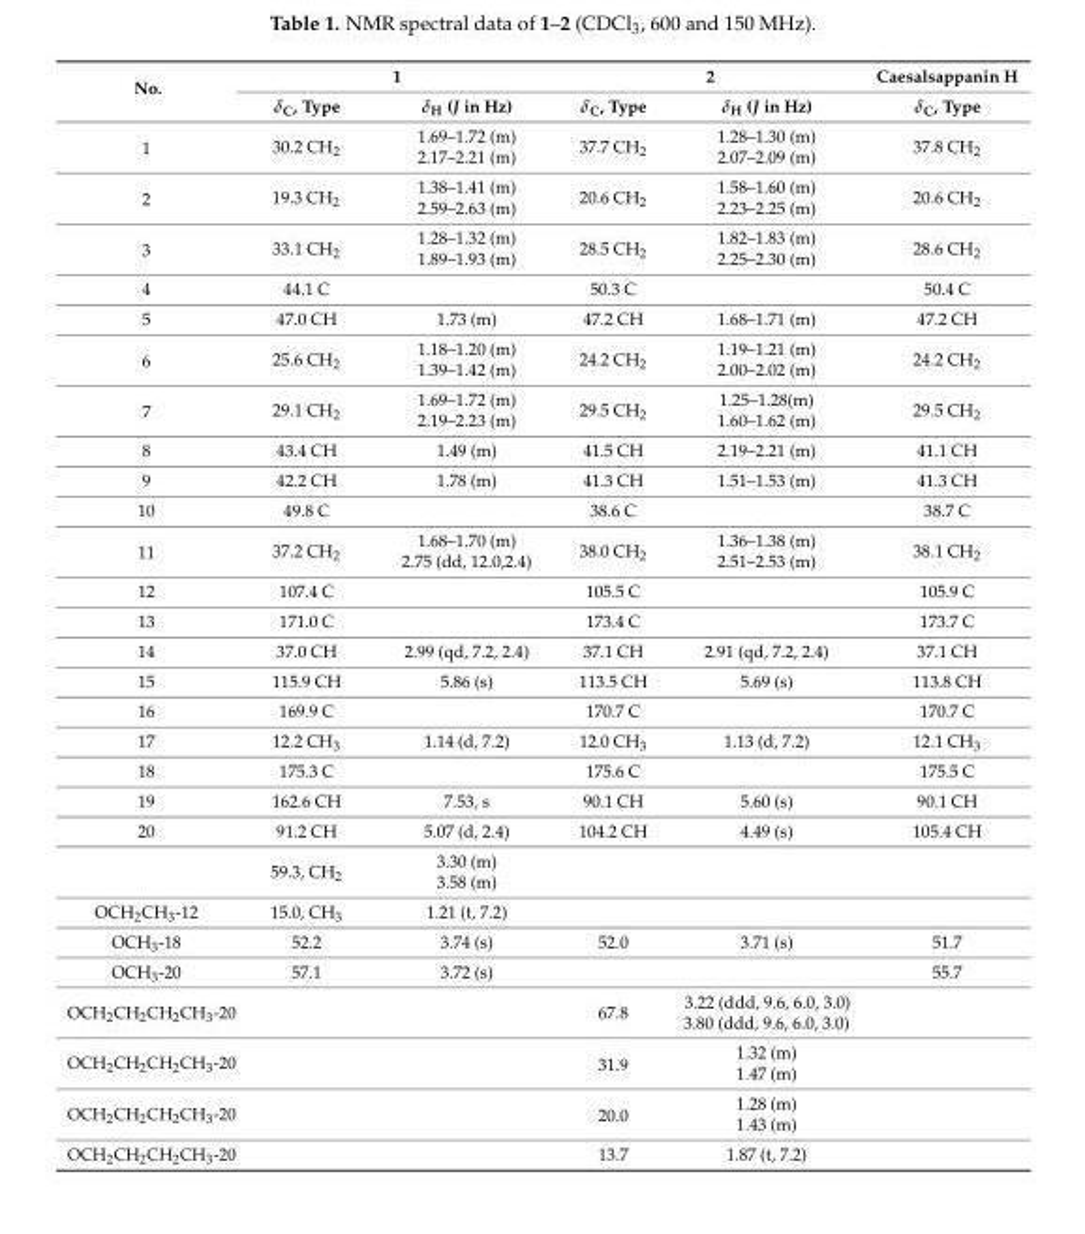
<table><thead><tr><td rowspan="2">No.</td><td colspan="2">1</td><td colspan="2">2</td><td rowspan="2">Caesalsappanin H δ<sub>C</sub>, Type</td></tr><tr><td>δ<sub>C</sub>, Type</td><td>δ<sub>H</sub> (J in Hz)</td><td>δ<sub>C</sub>, Type</td><td>δ<sub>H</sub> (J in Hz)</td></tr></thead><tbody><tr><td rowspan="2">1</td><td rowspan="2">30.2 CH<sub>2</sub></td><td>1.69–1.72 (m)</td><td rowspan="2">37.7 CH<sub>2</sub></td><td>1.28–1.30 (m)</td><td rowspan="2">37.8 CH<sub>2</sub></td></tr><tr><td>2.17–2.21 (m)</td><td>2.07–2.09 (m)</td></tr><tr><td rowspan="2">2</td><td rowspan="2">19.3 CH<sub>2</sub></td><td>1.38–1.41 (m)</td><td rowspan="2">20.6 CH<sub>2</sub></td><td>1.58–1.60 (m)</td><td rowspan="2">20.6 CH<sub>2</sub></td></tr><tr><td>2.59–2.63 (m)</td><td>2.23–2.25 (m)</td></tr><tr><td rowspan="2">3</td><td rowspan="2">33.1 CH<sub>2</sub></td><td>1.28–1.32 (m)</td><td rowspan="2">28.5 CH<sub>2</sub></td><td>1.82–1.83 (m)</td><td rowspan="2">28.6 CH<sub>2</sub></td></tr><tr><td>1.89–1.93 (m)</td><td>2.25–2.30 (m)</td></tr><tr><td>4</td><td>44.1 C</td><td></td><td>50.3 C</td><td></td><td>50.4 C</td></tr><tr><td>5</td><td>47.0 CH</td><td>1.73 (m)</td><td>47.2 CH</td><td>1.68–1.71 (m)</td><td>47.2 CH</td></tr><tr><td rowspan="2">6</td><td rowspan="2">25.6 CH<sub>2</sub></td><td>1.18–1.20 (m)</td><td rowspan="2">24.2 CH<sub>2</sub></td><td>1.19–1.21 (m)</td><td rowspan="2">24.2 CH<sub>2</sub></td></tr><tr><td>1.39–1.42 (m)</td><td>2.00–2.02 (m)</td></tr><tr><td rowspan="2">7</td><td rowspan="2">29.1 CH<sub>2</sub></td><td>1.69–1.72 (m)</td><td rowspan="2">29.5 CH<sub>2</sub></td><td>1.25–1.28(m)</td><td rowspan="2">29.5 CH<sub>2</sub></td></tr><tr><td>2.19–2.23 (m)</td><td>1.60–1.62 (m)</td></tr><tr><td>8</td><td>43.4 CH</td><td>1.49 (m)</td><td>41.5 CH</td><td>2.19–2.21 (m)</td><td>41.1 CH</td></tr><tr><td>9</td><td>42.2 CH</td><td>1.78 (m)</td><td>41.3 CH</td><td>1.51–1.53 (m)</td><td>41.3 CH</td></tr><tr><td>10</td><td>49.8 C</td><td></td><td>38.6 C</td><td></td><td>38.7 C</td></tr><tr><td rowspan="2">11</td><td rowspan="2">37.2 CH<sub>2</sub></td><td>1.68–1.70 (m)</td><td rowspan="2">38.0 CH<sub>2</sub></td><td>1.36–1.38 (m)</td><td rowspan="2">38.1 CH<sub>2</sub></td></tr><tr><td>2.75 (dd, 12.0,2.4)</td><td>2.51–2.53 (m)</td></tr><tr><td>12</td><td>107.4 C</td><td></td><td>105.5 C</td><td></td><td>105.9 C</td></tr><tr><td>13</td><td>171.0 C</td><td></td><td>173.4 C</td><td></td><td>173.7 C</td></tr><tr><td>14</td><td>37.0 CH</td><td>2.99 (qd, 7.2, 2.4)</td><td>37.1 CH</td><td>2.91 (qd, 7.2, 2.4)</td><td>37.1 CH</td></tr><tr><td>15</td><td>115.9 CH</td><td>5.86 (s)</td><td>113.5 CH</td><td>5.69 (s)</td><td>113.8 CH</td></tr><tr><td>16</td><td>169.9 C</td><td></td><td>170.7 C</td><td></td><td>170.7 C</td></tr><tr><td>17</td><td>12.2 CH<sub>3</sub></td><td>1.14 (d, 7.2)</td><td>12.0 CH<sub>3</sub></td><td>1.13 (d, 7.2)</td><td>12.1 CH<sub>3</sub></td></tr><tr><td>18</td><td>175.3 C</td><td></td><td>175.6 C</td><td></td><td>175.5 C</td></tr><tr><td>19</td><td>162.6 CH</td><td>7.53, s</td><td>90.1 CH</td><td>5.60 (s)</td><td>90.1 CH</td></tr><tr><td rowspan="3">20</td><td>91.2 CH</td><td>5.07 (d, 2.4)</td><td>104.2 CH</td><td>4.49 (s)</td><td>105.4 CH</td></tr><tr><td rowspan="2">59.3, CH<sub>2</sub></td><td>3.30 (m)</td><td rowspan="2"></td><td rowspan="2"></td><td rowspan="2"></td></tr><tr><td>3.58 (m)</td></tr><tr><td>OCH<sub>2</sub>CH<sub>3</sub>-12</td><td>15.0, CH<sub>3</sub></td><td>1.21 (t, 7.2)</td><td></td><td></td><td></td></tr><tr><td>OCH<sub>3</sub>-18</td><td>52.2</td><td>3.74 (s)</td><td>52.0</td><td>3.71 (s)</td><td>51.7</td></tr><tr><td>OCH<sub>3</sub>-20</td><td>57.1</td><td>3.72 (s)</td><td></td><td></td><td>55.7</td></tr><tr><td>OCH<sub>2</sub>CH<sub>2</sub>CH<sub>2</sub>CH<sub>3</sub>-20</td><td></td><td></td><td>67.8</td><td>3.22 (ddd, 9.6, 6.0, 3.0) 3.80 (ddd, 9.6, 6.0, 3.0)</td><td></td></tr><tr><td rowspan="2">OCH<sub>2</sub>CH<sub>2</sub>CH<sub>2</sub>CH<sub>3</sub>-20</td><td rowspan="2"></td><td rowspan="2"></td><td rowspan="2">31.9</td><td>1.32 (m)</td><td rowspan="2"></td></tr><tr><td>1.47 (m)</td></tr><tr><td rowspan="2">OCH<sub>2</sub>CH<sub>2</sub>CH<sub>2</sub>CH<sub>3</sub>-20</td><td rowspan="2"></td><td rowspan="2"></td><td rowspan="2">20.0</td><td>1.28 (m)</td><td rowspan="2"></td></tr><tr><td>1.43 (m)</td></tr><tr><td>OCH<sub>2</sub>CH<sub>2</sub>CH<sub>2</sub>CH<sub>3</sub>-20</td><td></td><td></td><td>13.7</td><td>1.87 (t, 7.2)</td><td></td></tr></tbody></table>